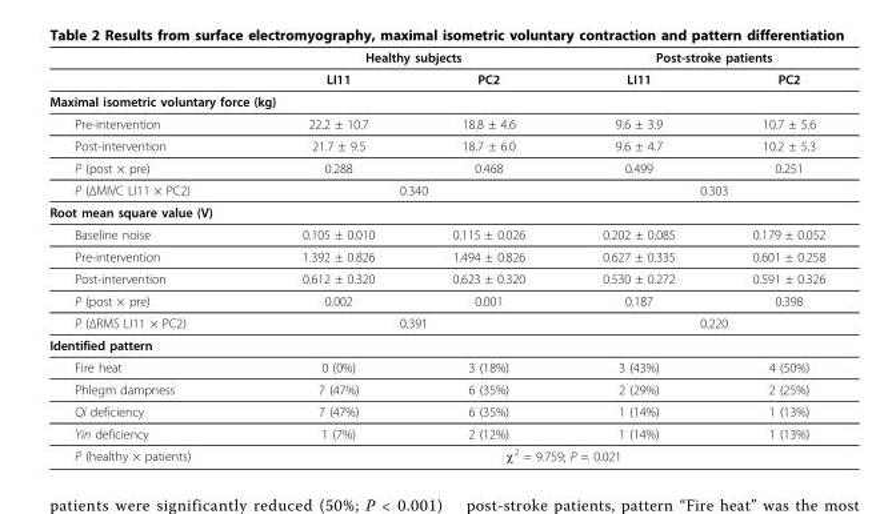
<table><thead><tr><td rowspan="2"></td><td colspan="2">Healthy subjects</td><td colspan="2">Post-stroke patients</td></tr><tr><td>LI11</td><td>PC2</td><td>LI11</td><td>PC2</td></tr></thead><tbody><tr><td colspan="5">Maximal isometric voluntary force (kg)</td></tr><tr><td>Pre-intervention</td><td>22.2 ± 10.7</td><td>18.8 ± 4.6</td><td>9.6 ± 3.9</td><td>10.7 ± 5.6</td></tr><tr><td>Post-intervention</td><td>21.7 ± 9.5</td><td>18.7 ± 6.0</td><td>9.6 ± 4.7</td><td>10.2 ± 5.3</td></tr><tr><td>P (post × pre)</td><td>0.288</td><td>0.468</td><td>0.499</td><td>0.251</td></tr><tr><td>P (ΔMIVC LI11 × PC2)</td><td colspan="2">0.340</td><td colspan="2">0.303</td></tr><tr><td colspan="5">Root mean square value (V)</td></tr><tr><td>Baseline noise</td><td>0.105 ± 0.010</td><td>0.115 ± 0.026</td><td>0.202 ± 0.085</td><td>0.179 ± 0.052</td></tr><tr><td>Pre-intervention</td><td>1.392 ± 0.826</td><td>1.494 ± 0.826</td><td>0.627 ± 0.335</td><td>0.601 ± 0.258</td></tr><tr><td>Post-intervention</td><td>0.612 ± 0.320</td><td>0.623 ± 0.320</td><td>0.530 ± 0.272</td><td>0.591 ± 0.326</td></tr><tr><td>P (post × pre)</td><td>0.002</td><td>0.001</td><td>0.187</td><td>0.398</td></tr><tr><td>P (ΔRMS LI11 × PC2)</td><td colspan="2">0.391</td><td colspan="2">0.220</td></tr><tr><td colspan="5">Identified pattern</td></tr><tr><td>Fire heat</td><td>0 (0%)</td><td>3 (18%)</td><td>3 (43%)</td><td>4 (50%)</td></tr><tr><td>Phlegm dampness</td><td>7 (47%)</td><td>6 (35%)</td><td>2 (29%)</td><td>2 (25%)</td></tr><tr><td>Qi deficiency</td><td>7 (47%)</td><td>6 (35%)</td><td>1 (14%)</td><td>1 (13%)</td></tr><tr><td>Yin deficiency</td><td>1 (7%)</td><td>2 (12%)</td><td>1 (14%)</td><td>1 (13%)</td></tr><tr><td>P (healthy × patients)</td><td colspan="4">χ2 = 9.759; P = 0.021</td></tr></tbody></table>